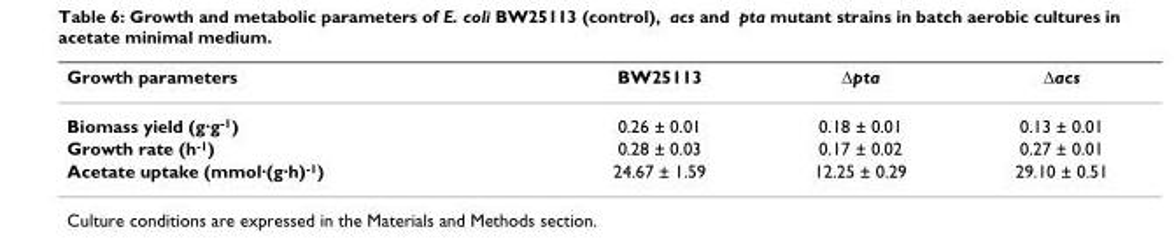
<table><thead><tr><td>Growth parameters</td><td>BW25113</td><td>Δpta</td><td>Δacs</td></tr></thead><tbody><tr><td>Biomass yield (g·g<sup>-1</sup>)</td><td>0.26 ± 0.01</td><td>0.18 ± 0.01</td><td>0.13 ± 0.01</td></tr><tr><td>Growth rate (h<sup>-1</sup>)</td><td>0.28 ± 0.03</td><td>0.17 ± 0.02</td><td>0.27 ± 0.01</td></tr><tr><td>Acetate uptake (mmol·(g·h)<sup>-1</sup>)</td><td>24.67 ± 1.59</td><td>12.25 ± 0.29</td><td>29.10 ± 0.51</td></tr></tbody></table>